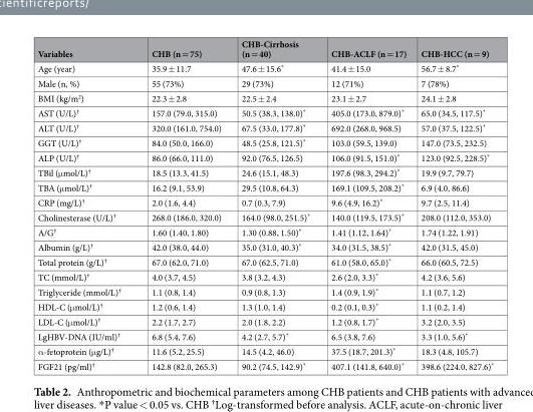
<table><thead><tr><td>Variables</td><td>CHB (n = 75)</td><td>CHB-Cirrhosis (n = 40)</td><td>CHB-ACLF (n = 17)</td><td>CHB-HCC (n = 9)</td></tr></thead><tbody><tr><td>Age (year)</td><td>35.9 ± 11.7</td><td>47.6 ± 15.6*</td><td>41.4 ± 15.0</td><td>56.7 ± 8.7*</td></tr><tr><td>Male (n, %)</td><td>55 (73%)</td><td>29 (73%)</td><td>12 (71%)</td><td>7 (78%)</td></tr><tr><td>BMI (kg/m<sup>2</sup>)</td><td>22.3 ± 2.8</td><td>22.5 ± 2.4</td><td>23.1 ± 2.7</td><td>24.1 ± 2.8</td></tr><tr><td>AST (U/L)<sup>†</sup></td><td>157.0 (79.0, 315.0)</td><td>50.5 (38.3, 138.0)*</td><td>405.0 (173.0, 879.0)*</td><td>65.0 (34.5, 117.5)*</td></tr><tr><td>ALT (U/L)<sup>†</sup></td><td>320.0 (161.0, 754.0)</td><td>67.5 (33.0, 177.8)*</td><td>692.0 (268.0, 968.5)</td><td>57.0 (37.5, 122.5)*</td></tr><tr><td>GGT (U/L)<sup>†</sup></td><td>84.0 (50.0, 166.0)</td><td>48.5 (25.8, 121.5)*</td><td>103.0 (59.5, 139.0)</td><td>147.0 (73.5, 232.5)</td></tr><tr><td>ALP (U/L)<sup>†</sup></td><td>86.0 (66.0, 111.0)</td><td>92.0 (76.5, 126.5)</td><td>106.0 (91.5, 151.0)*</td><td>123.0 (92.5, 228.5)*</td></tr><tr><td>TBil (μmol/L)<sup>†</sup></td><td>18.5 (13.3, 41.5)</td><td>24.6 (15.1, 48.3)</td><td>197.6 (98.3, 294.2)*</td><td>19.9 (9.7, 79.7)</td></tr><tr><td>TBA (μmol/L)<sup>†</sup></td><td>16.2 (9.1, 53.9)</td><td>29.5 (10.8, 64.3)</td><td>169.1 (109.5, 208.2)*</td><td>6.9 (4.0, 86.6)</td></tr><tr><td>CRP (mg/L)<sup>†</sup></td><td>2.0 (1.6, 4.4)</td><td>0.7 (0.3, 7.9)</td><td>9.6 (4.9, 16.2)*</td><td>9.7 (2.5, 11.4)</td></tr><tr><td>Cholinesterase (U/L)<sup>†</sup></td><td>268.0 (186.0, 320.0)</td><td>164.0 (98.0, 251.5)*</td><td>140.0 (119.5, 173.5)*</td><td>208.0 (112.0, 353.0)</td></tr><tr><td>A/G<sup>†</sup></td><td>1.60 (1.40, 1.80)</td><td>1.30 (0.88, 1.50)*</td><td>1.41 (1.12, 1.64)*</td><td>1.74 (1.22, 1.91)</td></tr><tr><td>Albumin (g/L)<sup>†</sup></td><td>42.0 (38.0, 44.0)</td><td>35.0 (31.0, 40.3)*</td><td>34.0 (31.5, 38.5)*</td><td>42.0 (31.5, 45.0)</td></tr><tr><td>Total protein (g/L)<sup>†</sup></td><td>67.0 (62.0, 71.0)</td><td>67.0 (62.5, 71.0)</td><td>61.0 (58.0, 65.0)*</td><td>66.0 (60.5, 72.5)</td></tr><tr><td>TC (mmol/L)<sup>†</sup></td><td>4.0 (3.7, 4.5)</td><td>3.8 (3.2, 4.3)</td><td>2.6 (2.0, 3.3)*</td><td>4.2 (3.6, 5.6)</td></tr><tr><td>Triglyceride (mmol/L)<sup>†</sup></td><td>1.1 (0.8, 1.4)</td><td>0.9 (0.8, 1.3)</td><td>1.4 (0.9, 1.9)*</td><td>1.1 (0.7, 1.2)</td></tr><tr><td>HDL-C (μmol/L)<sup>†</sup></td><td>1.2 (0.6, 1.4)</td><td>1.3 (1.0, 1.4)</td><td>0.2 (0.1, 0.3)*</td><td>1.1 (0.2, 1.4)</td></tr><tr><td>LDL-C (μmol/L)<sup>†</sup></td><td>2.2 (1.7, 2.7)</td><td>2.0 (1.8, 2.2)</td><td>1.2 (0.8, 1.7)*</td><td>3.2 (2.0, 3.5)</td></tr><tr><td>LgHBV-DNA (IU/ml)<sup>†</sup></td><td>6.8 (5.4, 7.6)</td><td>4.2 (2.7, 5.7)*</td><td>6.5 (3.8, 7.6)</td><td>3.3 (1.0, 5.6)*</td></tr><tr><td>α-fetoprotein (μg/L)<sup>†</sup></td><td>11.6 (5.2, 25.5)</td><td>14.5 (4.2, 46.0)</td><td>37.5 (18.7, 201.3)*</td><td>18.3 (4.8, 105.7)</td></tr><tr><td>FGF21 (pg/ml)<sup>†</sup></td><td>142.8 (82.0, 265.3)</td><td>90.2 (74.5, 142.9)*</td><td>407.1 (141.8, 640.0)*</td><td>398.6 (224.0, 827.6)*</td></tr></tbody></table>